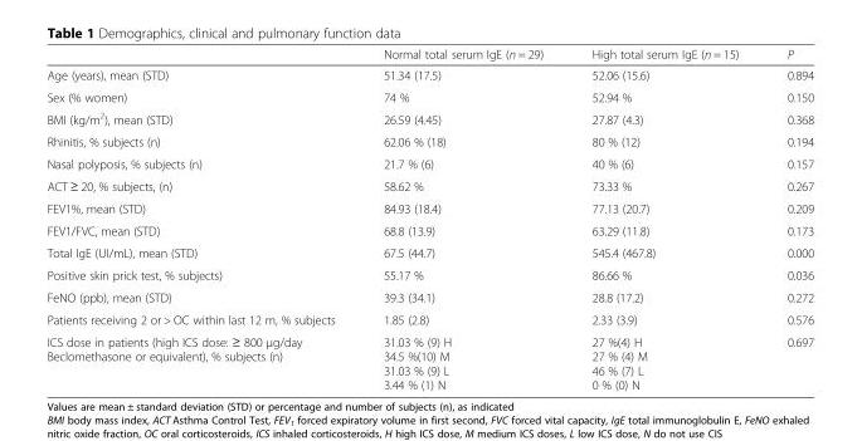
<table><thead><tr><td></td><td>Normal total serum IgE (n = 29)</td><td>High total serum IgE (n = 15)</td><td>P</td></tr></thead><tbody><tr><td>Age (years), mean (STD)</td><td>51.34 (17.5)</td><td>52.06 (15.6)</td><td>0.894</td></tr><tr><td>Sex (% women)</td><td>74 %</td><td>52.94 %</td><td>0.150</td></tr><tr><td>BMI (kg/m<sup>2</sup>), mean (STD)</td><td>26.59 (4.45)</td><td>27.87 (4.3)</td><td>0.368</td></tr><tr><td>Rhinitis, % subjects (n)</td><td>62.06 % (18)</td><td>80 % (12)</td><td>0.194</td></tr><tr><td>Nasal polyposis, % subjects (n)</td><td>21.7 % (6)</td><td>40 % (6)</td><td>0.157</td></tr><tr><td>ACT ≥ 20, % subjects, (n)</td><td>58.62 %</td><td>73.33 %</td><td>0.267</td></tr><tr><td>FEV1%, mean (STD)</td><td>84.93 (18.4)</td><td>77.13 (20.7)</td><td>0.209</td></tr><tr><td>FEV1/FVC, mean (STD)</td><td>68.8 (13.9)</td><td>63.29 (11.8)</td><td>0.173</td></tr><tr><td>Total IgE (UI/mL), mean (STD)</td><td>67.5 (44.7)</td><td>545.4 (467.8)</td><td>0.000</td></tr><tr><td>Positive skin prick test, % subjects)</td><td>55.17 %</td><td>86.66 %</td><td>0.036</td></tr><tr><td>FeNO (ppb), mean (STD)</td><td>39.3 (34.1)</td><td>28.8 (17.2)</td><td>0.272</td></tr><tr><td>Patients receiving 2 or &gt; OC within last 12 m, % subjects</td><td>1.85 (2.8)</td><td>2.33 (3.9)</td><td>0.576</td></tr><tr><td>ICS dose in patients (high ICS dose: ≥ 800 μg/day Beclomethasone or equivalent), % subjects (n)</td><td>31.03 % (9) H 34.5 %(10) M 31.03 % (9) L 3.44 % (1) N</td><td>27 %(4) H 27 % (4) M 46 % (7) L 0 % (0) N</td><td>0.697</td></tr></tbody></table>